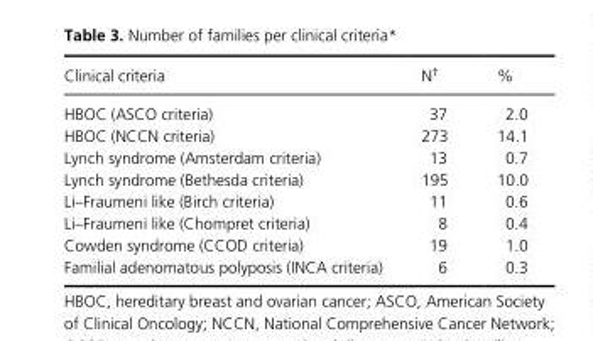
<table><thead><tr><td>Clinical criteria</td><td>N†</td><td>%</td></tr></thead><tbody><tr><td>HBOC (ASCO criteria)</td><td>37</td><td>2.0</td></tr><tr><td>HBOC (NCCN criteria)</td><td>273</td><td>14.1</td></tr><tr><td>Lynch syndrome (Amsterdam criteria)</td><td>13</td><td>0.7</td></tr><tr><td>Lynch syndrome (Bethesda criteria)</td><td>195</td><td>10.0</td></tr><tr><td>Li–Fraumeni like (Birch criteria)</td><td>11</td><td>0.6</td></tr><tr><td>Li–Fraumeni like (Chompret criteria)</td><td>8</td><td>0.4</td></tr><tr><td>Cowden syndrome (CCOD criteria)</td><td>19</td><td>1.0</td></tr><tr><td>Familial adenomatous polyposis (INCA criteria)</td><td>6</td><td>0.3</td></tr></tbody></table>